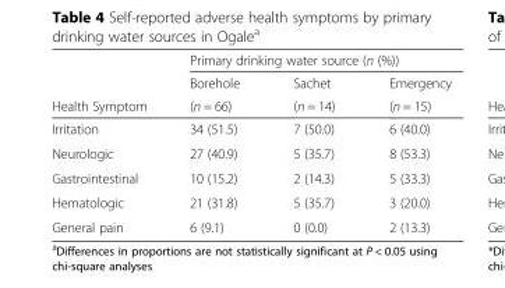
<table><thead><tr><td rowspan="3">Health Symptom</td><td colspan="3">Primary drinking water source (n (%))</td></tr><tr><td rowspan="2">Borehole (n = 66)</td><td rowspan="2">Sachet (n = 14)</td><td rowspan="2">Emergency (n = 15)</td></tr><tr></tr></thead><tbody><tr><td>Irritation</td><td>34 (51.5)</td><td>7 (50.0)</td><td>6 (40.0)</td></tr><tr><td>Neurologic</td><td>27 (40.9)</td><td>5 (35.7)</td><td>8 (53.3)</td></tr><tr><td>Gastrointestinal</td><td>10 (15.2)</td><td>2 (14.3)</td><td>5 (33.3)</td></tr><tr><td>Hematologic</td><td>21 (31.8)</td><td>5 (35.7)</td><td>3 (20.0)</td></tr><tr><td>General pain</td><td>6 (9.1)</td><td>0 (0.0)</td><td>2 (13.3)</td></tr></tbody></table>